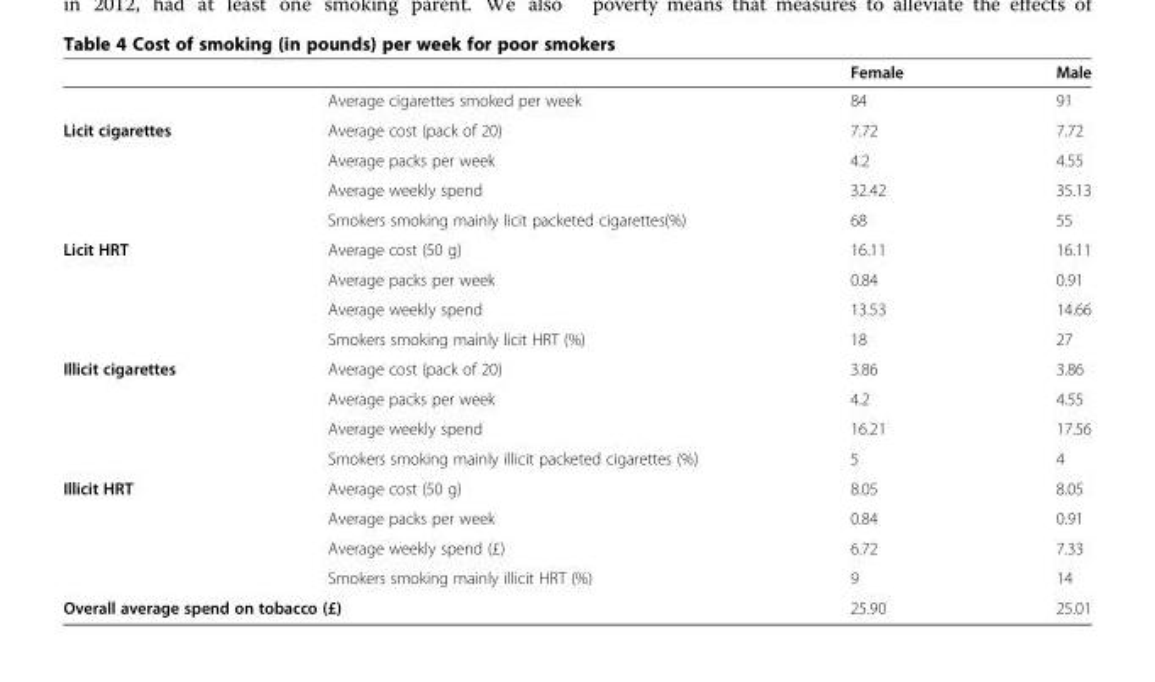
<table><thead><tr><td></td><td></td><td>Female</td><td>Male</td></tr></thead><tbody><tr><td></td><td>Average cigarettes smoked per week</td><td>84</td><td>91</td></tr><tr><td rowspan="4">Licit cigarettes</td><td>Average cost (pack of 20)</td><td>7.72</td><td>7.72</td></tr><tr><td>Average packs per week</td><td>4.2</td><td>4.55</td></tr><tr><td>Average weekly spend</td><td>32.42</td><td>35.13</td></tr><tr><td>Smokers smoking mainly licit packeted cigarettes(%)</td><td>68</td><td>55</td></tr><tr><td rowspan="4">Licit HRT</td><td>Average cost (50 g)</td><td>16.11</td><td>16.11</td></tr><tr><td>Average packs per week</td><td>0.84</td><td>0.91</td></tr><tr><td>Average weekly spend</td><td>13.53</td><td>14.66</td></tr><tr><td>Smokers smoking mainly licit HRT (%)</td><td>18</td><td>27</td></tr><tr><td rowspan="4">Illicit cigarettes</td><td>Average cost (pack of 20)</td><td>3.86</td><td>3.86</td></tr><tr><td>Average packs per week</td><td>4.2</td><td>4.55</td></tr><tr><td>Average weekly spend</td><td>16.21</td><td>17.56</td></tr><tr><td>Smokers smoking mainly illicit packeted cigarettes (%)</td><td>5</td><td>4</td></tr><tr><td rowspan="4">Illicit HRT</td><td>Average cost (50 g)</td><td>8.05</td><td>8.05</td></tr><tr><td>Average packs per week</td><td>0.84</td><td>0.91</td></tr><tr><td>Average weekly spend (£)</td><td>6.72</td><td>7.33</td></tr><tr><td>Smokers smoking mainly illicit HRT (%)</td><td>9</td><td>14</td></tr><tr><td colspan="2">Overall average spend on tobacco (£)</td><td>25.90</td><td>25.01</td></tr></tbody></table>